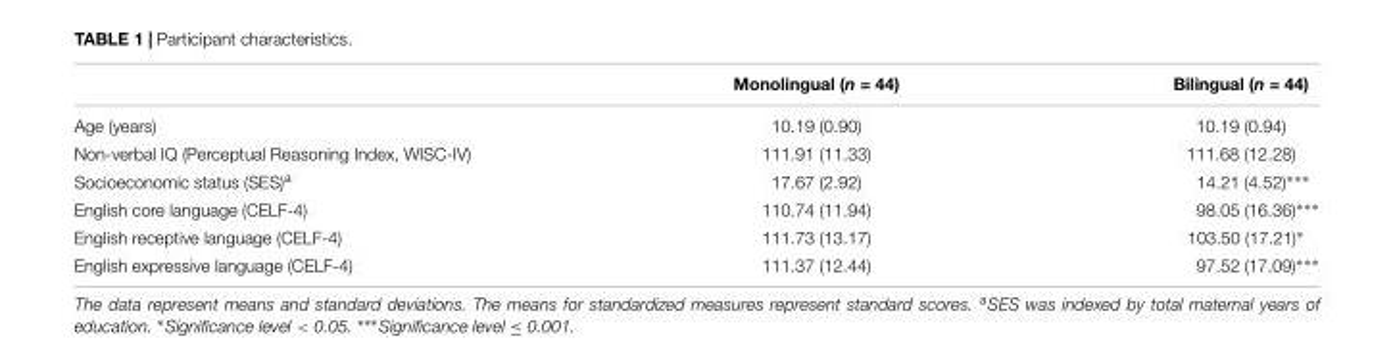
<table><thead><tr><td></td><td>Monolingual (n = 44)</td><td>Bilingual (n = 44)</td></tr></thead><tbody><tr><td>Age (years)</td><td>10.19 (0.90)</td><td>10.19 (0.94)</td></tr><tr><td>Non-verbal IQ (Perceptual Reasoning Index, WISC-IV)</td><td>111.91 (11.33)</td><td>111.68 (12.28)</td></tr><tr><td>Socioeconomic status (SES)<sup>a</sup></td><td>17.67 (2.92)</td><td>14.21 (4.52)∗∗∗</td></tr><tr><td>English core language (CELF-4)</td><td>110.74 (11.94)</td><td>98.05 (16.36)∗∗∗</td></tr><tr><td>English receptive language (CELF-4)</td><td>111.73 (13.17)</td><td>103.50 (17.21)∗</td></tr><tr><td>English expressive language (CELF-4)</td><td>111.37 (12.44)</td><td>97.52 (17.09)∗∗∗</td></tr></tbody></table>